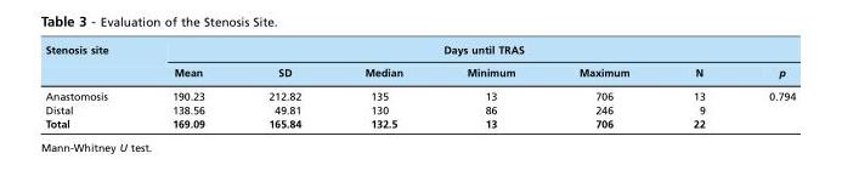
<table><thead><tr><td rowspan="2">Stenosis site</td><td colspan="7">Days until TRAS</td></tr><tr><td>Mean</td><td>SD</td><td>Median</td><td>Minimum</td><td>Maximum</td><td>N</td><td>p</td></tr></thead><tbody><tr><td>Anastomosis</td><td>190.23</td><td>212.82</td><td>135</td><td>13</td><td>706</td><td>13</td><td>0.794</td></tr><tr><td>Distal</td><td>138.56</td><td>49.81</td><td>130</td><td>86</td><td>246</td><td>9</td><td></td></tr><tr><td>Total</td><td>169.09</td><td>165.84</td><td>132.5</td><td>13</td><td>706</td><td>22</td><td></td></tr></tbody></table>